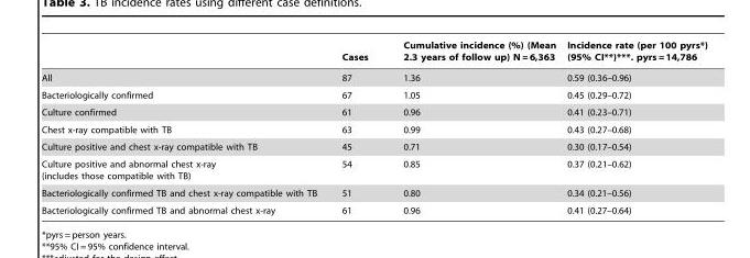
<table><thead><tr><td></td><td>Cases</td><td>Cumulative incidence (%) (Mean 2.3 years of follow up) N = 6,363</td><td>Incidence rate (per 100 pyrs*) (95% CI**)***. pyrs = 14,786</td></tr></thead><tbody><tr><td>All</td><td>87</td><td>1.36</td><td>0.59 (0.36–0.96)</td></tr><tr><td>Bacteriologically confirmed</td><td>67</td><td>1.05</td><td>0.45 (0.29–0.72)</td></tr><tr><td>Culture confirmed</td><td>61</td><td>0.96</td><td>0.41 (0.23–0.71)</td></tr><tr><td>Chest x-ray compatible with TB</td><td>63</td><td>0.99</td><td>0.43 (0.27–0.68)</td></tr><tr><td>Culture positive and chest x-ray compatible with TB</td><td>45</td><td>0.71</td><td>0.30 (0.17–0.54)</td></tr><tr><td>Culture positive and abnormal chest x-ray (includes those compatible with TB)</td><td>54</td><td>0.85</td><td>0.37 (0.21–0.62)</td></tr><tr><td>Bacteriologically confirmed TB and chest x-ray compatible with TB</td><td>51</td><td>0.80</td><td>0.34 (0.21–0.56)</td></tr><tr><td>Bacteriologically confirmed TB and abnormal chest x-ray</td><td>61</td><td>0.96</td><td>0.41 (0.27–0.64)</td></tr></tbody></table>